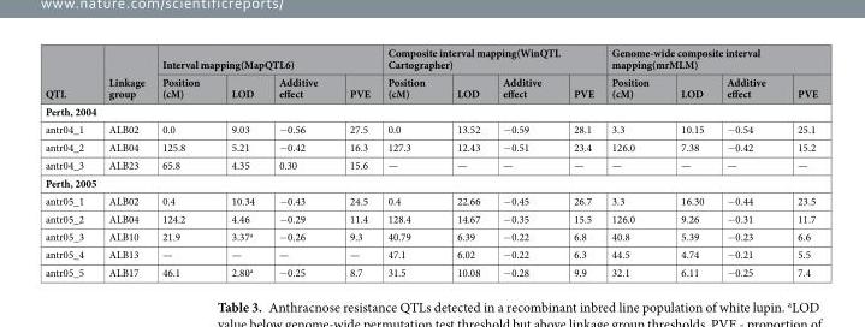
<table><thead><tr><td rowspan="2">QTL</td><td rowspan="2">Linkage group</td><td colspan="4">Interval mapping(MapQTL6)</td><td colspan="4">Composite interval mapping(WinQTL Cartographer)</td><td colspan="4">Genome-wide composite interval mapping(mrMLM)</td></tr><tr><td>Position (cM)</td><td>LOD</td><td>Additive effect</td><td>PVE</td><td>Position (cM)</td><td>LOD</td><td>Additive effect</td><td>PVE</td><td>Position (cM)</td><td>LOD</td><td>Additive effect</td><td>PVE</td></tr></thead><tbody><tr><td colspan="14">Perth, 2004</td></tr><tr><td>antr04_1</td><td>ALB02</td><td>0.0</td><td>9.03</td><td>−0.56</td><td>27.5</td><td>0.0</td><td>13.52</td><td>−0.59</td><td>28.1</td><td>3.3</td><td>10.15</td><td>−0.54</td><td>25.1</td></tr><tr><td>antr04_2</td><td>ALB04</td><td>125.8</td><td>5.21</td><td>−0.42</td><td>16.3</td><td>127.3</td><td>12.43</td><td>−0.51</td><td>23.4</td><td>126.0</td><td>7.38</td><td>−0.42</td><td>15.2</td></tr><tr><td>antr04_3</td><td>ALB23</td><td>65.8</td><td>4.35</td><td>0.30</td><td>15.6</td><td>—</td><td>—</td><td>—</td><td>—</td><td>—</td><td>—</td><td>—</td><td>—</td></tr><tr><td colspan="14">Perth, 2005</td></tr><tr><td>antr05_1</td><td>ALB02</td><td>0.4</td><td>10.34</td><td>−0.43</td><td>24.5</td><td>0.4</td><td>22.66</td><td>−0.45</td><td>26.7</td><td>3.3</td><td>16.30</td><td>−0.44</td><td>23.5</td></tr><tr><td>antr05_2</td><td>ALB04</td><td>124.2</td><td>4.46</td><td>−0.29</td><td>11.4</td><td>128.4</td><td>14.67</td><td>−0.35</td><td>15.5</td><td>126.0</td><td>9.26</td><td>−0.31</td><td>11.7</td></tr><tr><td>antr05_3</td><td>ALB10</td><td>21.9</td><td>3.37<sup>a</sup></td><td>−0.26</td><td>9.3</td><td>40.79</td><td>6.39</td><td>−0.22</td><td>6.8</td><td>40.8</td><td>5.39</td><td>−0.23</td><td>6.6</td></tr><tr><td>antr05_4</td><td>ALB13</td><td>—</td><td>—</td><td>—</td><td>—</td><td>47.1</td><td>6.02</td><td>−0.22</td><td>6.3</td><td>44.5</td><td>4.74</td><td>−0.21</td><td>5.5</td></tr><tr><td>antr05_5</td><td>ALB17</td><td>46.1</td><td>2.80<sup>a</sup></td><td>−0.25</td><td>8.7</td><td>31.5</td><td>10.08</td><td>−0.28</td><td>9.9</td><td>32.1</td><td>6.11</td><td>−0.25</td><td>7.4</td></tr></tbody></table>